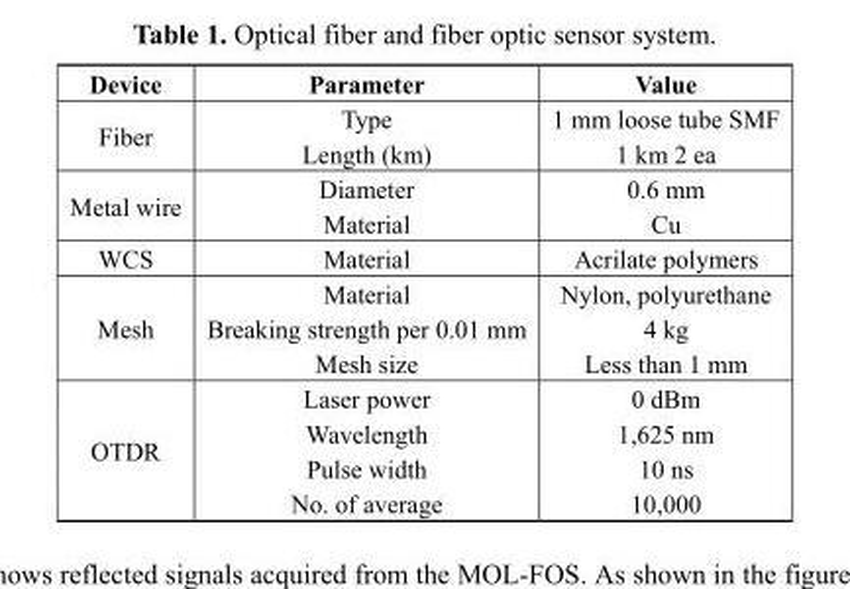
<table><thead><tr><td>Device</td><td>Parameter</td><td>Value</td></tr></thead><tbody><tr><td>Fiber</td><td>Type Length (km)</td><td>1 mm loose tube SMF 1 km 2 ea</td></tr><tr><td>Metal wire</td><td>Diameter Material</td><td>0.6 mm Cu</td></tr><tr><td>WCS</td><td>Material</td><td>Acrilate polymers</td></tr><tr><td>Mesh</td><td>Material Breaking strength per 0.01 mm Mesh size</td><td>Nylon, polyurethane 4 kg Less than 1 mm</td></tr><tr><td>OTDR</td><td>Laser power Wavelength Pulse width No. of average</td><td>0 dBm 1,625 nm 10 ns 10,000</td></tr></tbody></table>